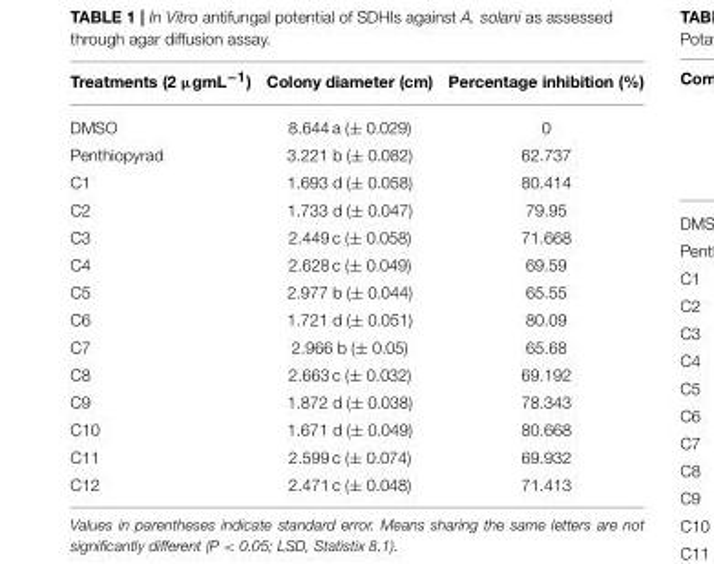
<table><thead><tr><td>Treatments (2 µgmL<sup>−1</sup>)</td><td>Colony diameter (cm)</td><td>Percentage inhibition (%)</td></tr></thead><tbody><tr><td>DMSO</td><td>8.644 a (± 0.029)</td><td>0</td></tr><tr><td>Penthiopyrad</td><td>3.221 b (± 0.082)</td><td>62.737</td></tr><tr><td>C1</td><td>1.693 d (± 0.058)</td><td>80.414</td></tr><tr><td>C2</td><td>1.733 d (± 0.047)</td><td>79.95</td></tr><tr><td>C3</td><td>2.449 c (± 0.058)</td><td>71.668</td></tr><tr><td>C4</td><td>2.628 c (± 0.049)</td><td>69.59</td></tr><tr><td>C5</td><td>2.977 b (± 0.044)</td><td>65.55</td></tr><tr><td>C6</td><td>1.721 d (± 0.051)</td><td>80.09</td></tr><tr><td>C7</td><td>2.966 b (± 0.05)</td><td>65.68</td></tr><tr><td>C8</td><td>2.663 c (± 0.032)</td><td>69.192</td></tr><tr><td>C9</td><td>1.872 d (± 0.038)</td><td>78.343</td></tr><tr><td>C10</td><td>1.671 d (± 0.049)</td><td>80.668</td></tr><tr><td>C11</td><td>2.599 c (± 0.074)</td><td>69.932</td></tr><tr><td>C12</td><td>2.471 c (± 0.048)</td><td>71.413</td></tr></tbody></table>